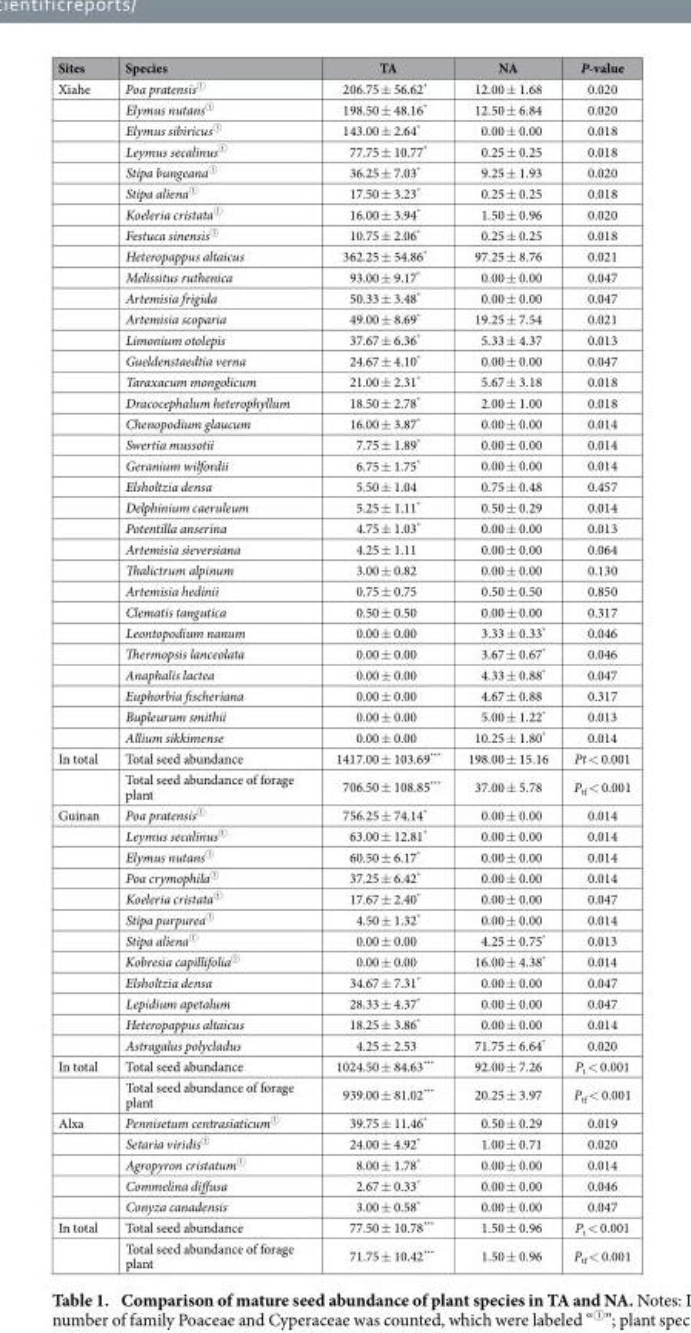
<table><thead><tr><td>Sites</td><td>Species</td><td>TA</td><td>NA</td><td>P-value</td></tr></thead><tbody><tr><td rowspan="32">Xiahe</td><td>Poa pratensis<sup>①</sup></td><td>206.75 ± 56.62*</td><td>12.00 ± 1.68</td><td>0.020</td></tr><tr><td>Elymus nutans<sup>①</sup></td><td>198.50 ± 48.16*</td><td>12.50 ± 6.84</td><td>0.020</td></tr><tr><td>Elymus sibiricus<sup>①</sup></td><td>143.00 ± 2.64*</td><td>0.00 ± 0.00</td><td>0.018</td></tr><tr><td>Leymus secalinus<sup>①</sup></td><td>77.75 ± 10.77*</td><td>0.25 ± 0.25</td><td>0.018</td></tr><tr><td>Stipa bungeana<sup>①</sup></td><td>36.25 ± 7.03*</td><td>9.25 ± 1.93</td><td>0.020</td></tr><tr><td>Stipa aliena<sup>①</sup></td><td>17.50 ± 3.23*</td><td>0.25 ± 0.25</td><td>0.018</td></tr><tr><td>Koeleria cristata<sup>①</sup></td><td>16.00 ± 3.94*</td><td>1.50 ± 0.96</td><td>0.020</td></tr><tr><td>Festuca sinensis<sup>①</sup></td><td>10.75 ± 2.06*</td><td>0.25 ± 0.25</td><td>0.018</td></tr><tr><td>Heteropappus altaicus</td><td>362.25 ± 54.86*</td><td>97.25 ± 8.76</td><td>0.021</td></tr><tr><td>Melissitus ruthenica</td><td>93.00 ± 9.17*</td><td>0.00 ± 0.00</td><td>0.047</td></tr><tr><td>Artemisia frigida</td><td>50.33 ± 3.48*</td><td>0.00 ± 0.00</td><td>0.047</td></tr><tr><td>Artemisia scoparia</td><td>49.00 ± 8.69*</td><td>19.25 ± 7.54</td><td>0.021</td></tr><tr><td>Limonium otolepis</td><td>37.67 ± 6.36*</td><td>5.33 ± 4.37</td><td>0.013</td></tr><tr><td>Gueldenstaedtia verna</td><td>24.67 ± 4.10*</td><td>0.00 ± 0.00</td><td>0.047</td></tr><tr><td>Taraxacum mongolicum</td><td>21.00 ± 2.31*</td><td>5.67 ± 3.18</td><td>0.018</td></tr><tr><td>Dracocephalum heterophyllum</td><td>18.50 ± 2.78*</td><td>2.00 ± 1.00</td><td>0.018</td></tr><tr><td>Chenopodium glaucum</td><td>16.00 ± 3.87*</td><td>0.00 ± 0.00</td><td>0.014</td></tr><tr><td>Swertia mussotii</td><td>7.75 ± 1.89*</td><td>0.00 ± 0.00</td><td>0.014</td></tr><tr><td>Geranium wilfordii</td><td>6.75 ± 1.75*</td><td>0.00 ± 0.00</td><td>0.014</td></tr><tr><td>Elsholtzia densa</td><td>5.50 ± 1.04</td><td>0.75 ± 0.48</td><td>0.457</td></tr><tr><td>Delphinium caeruleum</td><td>5.25 ± 1.11*</td><td>0.50 ± 0.29</td><td>0.014</td></tr><tr><td>Potentilla anserina</td><td>4.75 ± 1.03*</td><td>0.00 ± 0.00</td><td>0.013</td></tr><tr><td>Artemisia sieversiana</td><td>4.25 ± 1.11</td><td>0.00 ± 0.00</td><td>0.064</td></tr><tr><td>Thalictrum alpinum</td><td>3.00 ± 0.82</td><td>0.00 ± 0.00</td><td>0.130</td></tr><tr><td>Artemisia hedinii</td><td>0.75 ± 0.75</td><td>0.50 ± 0.50</td><td>0.850</td></tr><tr><td>Clematis tangutica</td><td>0.50 ± 0.50</td><td>0.00 ± 0.00</td><td>0.317</td></tr><tr><td>Leontopodium nanum</td><td>0.00 ± 0.00</td><td>3.33 ± 0.33*</td><td>0.046</td></tr><tr><td>Thermopsis lanceolata</td><td>0.00 ± 0.00</td><td>3.67 ± 0.67*</td><td>0.046</td></tr><tr><td>Anaphalis lactea</td><td>0.00 ± 0.00</td><td>4.33 ± 0.88*</td><td>0.047</td></tr><tr><td>Euphorbia fischeriana</td><td>0.00 ± 0.00</td><td>4.67 ± 0.88</td><td>0.317</td></tr><tr><td>Bupleurum smithii</td><td>0.00 ± 0.00</td><td>5.00 ± 1.22*</td><td>0.013</td></tr><tr><td>Allium sikkimense</td><td>0.00 ± 0.00</td><td>10.25 ± 1.80*</td><td>0.014</td></tr><tr><td rowspan="2">In total</td><td>Total seed abundance</td><td>1417.00 ± 103.69***</td><td>198.00 ± 15.16</td><td>Pt &lt; 0.001</td></tr><tr><td>Total seed abundance of forage plant</td><td>706.50 ± 108.85***</td><td>37.00 ± 5.78</td><td>P<sub>tf</sub> &lt; 0.001</td></tr><tr><td rowspan="12">Guinan</td><td>Poa pratensis<sup>①</sup></td><td>756.25 ± 74.14*</td><td>0.00 ± 0.00</td><td>0.014</td></tr><tr><td>Leymus secalinus<sup>①</sup></td><td>63.00 ± 12.81*</td><td>0.00 ± 0.00</td><td>0.014</td></tr><tr><td>Elymus nutans<sup>①</sup></td><td>60.50 ± 6.17*</td><td>0.00 ± 0.00</td><td>0.014</td></tr><tr><td>Poa crymophila<sup>①</sup></td><td>37.25 ± 6.42*</td><td>0.00 ± 0.00</td><td>0.014</td></tr><tr><td>Koeleria cristata<sup>①</sup></td><td>17.67 ± 2.40*</td><td>0.00 ± 0.00</td><td>0.047</td></tr><tr><td>Stipa purpurea<sup>①</sup></td><td>4.50 ± 1.32*</td><td>0.00 ± 0.00</td><td>0.014</td></tr><tr><td>Stipa aliena<sup>①</sup></td><td>0.00 ± 0.00</td><td>4.25 ± 0.75*</td><td>0.013</td></tr><tr><td>Kobresia capillifolia<sup>①</sup></td><td>0.00 ± 0.00</td><td>16.00 ± 4.38*</td><td>0.014</td></tr><tr><td>Elsholtzia densa</td><td>34.67 ± 7.31*</td><td>0.00 ± 0.00</td><td>0.047</td></tr><tr><td>Lepidium apetalum</td><td>28.33 ± 4.37*</td><td>0.00 ± 0.00</td><td>0.047</td></tr><tr><td>Heteropappus altaicus</td><td>18.25 ± 3.86*</td><td>0.00 ± 0.00</td><td>0.014</td></tr><tr><td>Astragalus polycladus</td><td>4.25 ± 2.53</td><td>71.75 ± 6.64*</td><td>0.020</td></tr><tr><td rowspan="2">In total</td><td>Total seed abundance</td><td>1024.50 ± 84.63***</td><td>92.00 ± 7.26</td><td>P<sub>t</sub> &lt; 0.001</td></tr><tr><td>Total seed abundance of forage plant</td><td>939.00 ± 81.02***</td><td>20.25 ± 3.97</td><td>P<sub>tf</sub> &lt; 0.001</td></tr><tr><td rowspan="5">Alxa</td><td>Pennisetum centrasiaticum<sup>①</sup></td><td>39.75 ± 11.46*</td><td>0.50 ± 0.29</td><td>0.019</td></tr><tr><td>Setaria viridis<sup>①</sup></td><td>24.00 ± 4.92*</td><td>1.00 ± 0.71</td><td>0.020</td></tr><tr><td>Agropyron cristatum<sup>①</sup></td><td>8.00 ± 1.78*</td><td>0.00 ± 0.00</td><td>0.014</td></tr><tr><td>Commelina diffusa</td><td>2.67 ± 0.33*</td><td>0.00 ± 0.00</td><td>0.046</td></tr><tr><td>Conyza canadensis</td><td>3.00 ± 0.58*</td><td>0.00 ± 0.00</td><td>0.047</td></tr><tr><td rowspan="2">In total</td><td>Total seed abundance</td><td>77.50 ± 10.78***</td><td>1.50 ± 0.96</td><td>P<sub>t</sub> &lt; 0.001</td></tr><tr><td>Total seed abundance of forage plant</td><td>71.75 ± 10.42***</td><td>1.50 ± 0.96</td><td>P<sub>tf</sub> &lt; 0.001</td></tr></tbody></table>